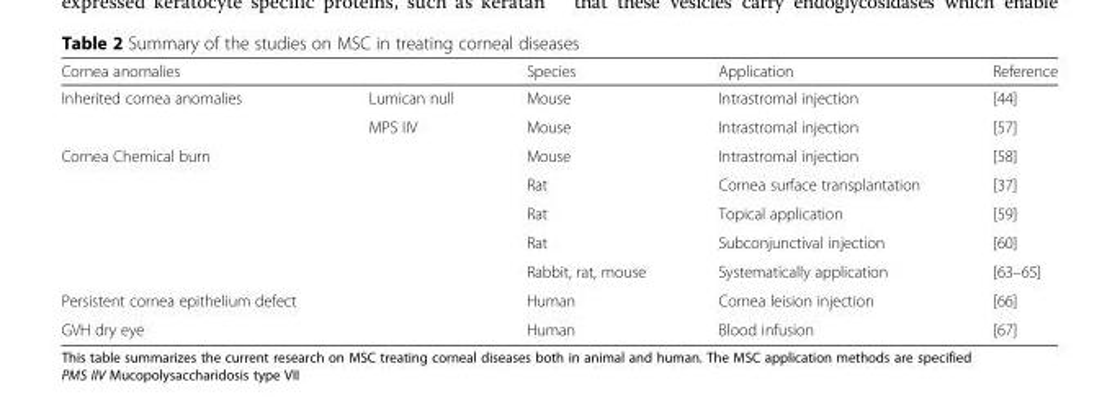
<table><thead><tr><td>Cornea anomalies</td><td></td><td>Species</td><td>Application</td><td>Reference</td></tr></thead><tbody><tr><td rowspan="2">Inherited cornea anomalies</td><td>Lumican null</td><td>Mouse</td><td>Intrastromal injection</td><td>[44]</td></tr><tr><td>MPS IIV</td><td>Mouse</td><td>Intrastromal injection</td><td>[57]</td></tr><tr><td rowspan="5">Cornea Chemical burn</td><td></td><td>Mouse</td><td>Intrastromal injection</td><td>[58]</td></tr><tr><td></td><td>Rat</td><td>Cornea surface transplantation</td><td>[37]</td></tr><tr><td></td><td>Rat</td><td>Topical application</td><td>[59]</td></tr><tr><td></td><td>Rat</td><td>Subconjunctival injection</td><td>[60]</td></tr><tr><td></td><td>Rabbit, rat, mouse</td><td>Systematically application</td><td>[63–65]</td></tr><tr><td>Persistent cornea epithelium defect</td><td></td><td>Human</td><td>Cornea leision injection</td><td>[66]</td></tr><tr><td>GVH dry eye</td><td></td><td>Human</td><td>Blood infusion</td><td>[67]</td></tr></tbody></table>